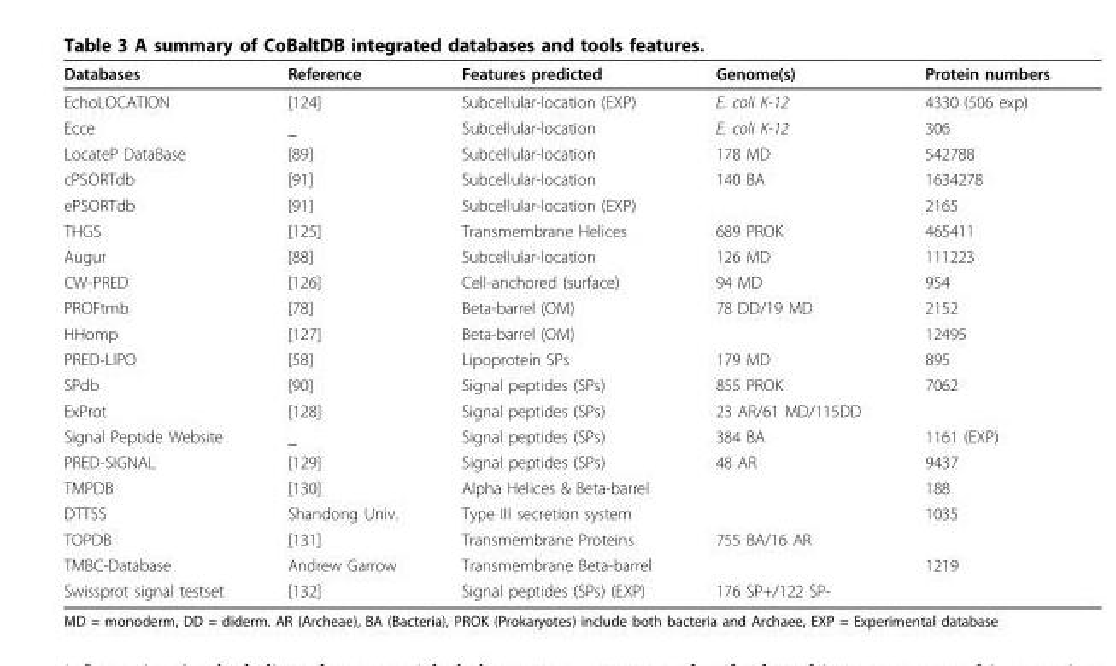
<table><thead><tr><td>Databases</td><td>Reference</td><td>Features predicted</td><td>Genome(s)</td><td>Protein numbers</td></tr></thead><tbody><tr><td>EchoLOCATION</td><td>[124]</td><td>Subcellular-location (EXP)</td><td>E. coli K-12</td><td>4330 (506 exp)</td></tr><tr><td>Ecce</td><td>_</td><td>Subcellular-location</td><td>E. coli K-12</td><td>306</td></tr><tr><td>LocateP DataBase</td><td>[89]</td><td>Subcellular-location</td><td>178 MD</td><td>542788</td></tr><tr><td>cPSORTdb</td><td>[91]</td><td>Subcellular-location</td><td>140 BA</td><td>1634278</td></tr><tr><td>ePSORTdb</td><td>[91]</td><td>Subcellular-location (EXP)</td><td></td><td>2165</td></tr><tr><td>THGS</td><td>[125]</td><td>Transmembrane Helices</td><td>689 PROK</td><td>465411</td></tr><tr><td>Augur</td><td>[88]</td><td>Subcellular-location</td><td>126 MD</td><td>111223</td></tr><tr><td>CW-PRED</td><td>[126]</td><td>Cell-anchored (surface)</td><td>94 MD</td><td>954</td></tr><tr><td>PROFtmb</td><td>[78]</td><td>Beta-barrel (OM)</td><td>78 DD/19 MD</td><td>2152</td></tr><tr><td>HHomp</td><td>[127]</td><td>Beta-barrel (OM)</td><td></td><td>12495</td></tr><tr><td>PRED-LIPO</td><td>[58]</td><td>Lipoprotein SPs</td><td>179 MD</td><td>895</td></tr><tr><td>SPdb</td><td>[90]</td><td>Signal peptides (SPs)</td><td>855 PROK</td><td>7062</td></tr><tr><td>ExProt</td><td>[128]</td><td>Signal peptides (SPs)</td><td>23 AR/61 MD/115DD</td><td></td></tr><tr><td>Signal Peptide Website</td><td>_</td><td>Signal peptides (SPs)</td><td>384 BA</td><td>1161 (EXP)</td></tr><tr><td>PRED-SIGNAL</td><td>[129]</td><td>Signal peptides (SPs)</td><td>48 AR</td><td>9437</td></tr><tr><td>TMPDB</td><td>[130]</td><td>Alpha Helices &amp; Beta-barrel</td><td></td><td>188</td></tr><tr><td>DTTSS</td><td>Shandong Univ.</td><td>Type III secretion system</td><td></td><td>1035</td></tr><tr><td>TOPDB</td><td>[131]</td><td>Transmembrane Proteins</td><td>755 BA/16 AR</td><td></td></tr><tr><td>TMBC-Database</td><td>Andrew Garrow</td><td>Transmembrane Beta-barrel</td><td></td><td>1219</td></tr><tr><td>Swissprot signal testset</td><td>[132]</td><td>Signal peptides (SPs) (EXP)</td><td>176 SP+/122 SP-</td><td></td></tr></tbody></table>